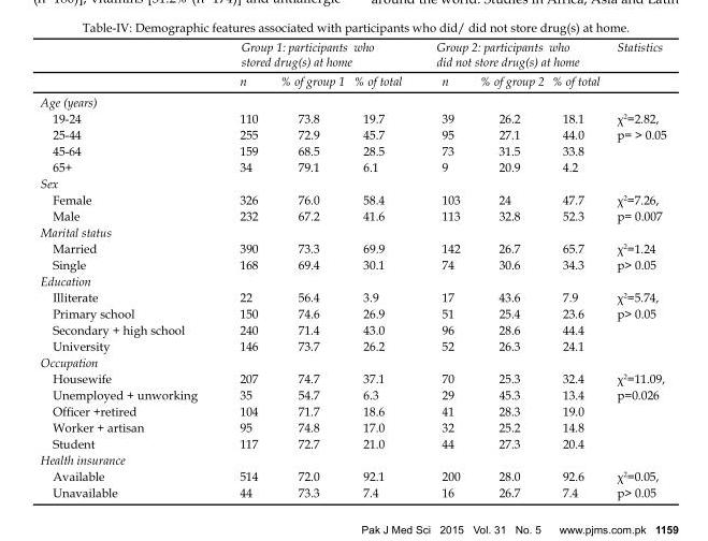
<table><thead><tr><td rowspan="2"></td><td colspan="3">Group 1: participants who stored drug(s) at home</td><td colspan="3">Group 2: participants who did not store drug(s) at home</td><td rowspan="2">Statistics</td></tr><tr><td>n</td><td>% of group 1</td><td>% of total</td><td>n</td><td>% of group 2</td><td>% of total</td></tr></thead><tbody><tr><td colspan="8">Age (years)</td></tr><tr><td>19-24</td><td>110</td><td>73.8</td><td>19.7</td><td>39</td><td>26.2</td><td>18.1</td><td>χ<sup>2</sup>=2.82,</td></tr><tr><td>25-44</td><td>255</td><td>72.9</td><td>45.7</td><td>95</td><td>27.1</td><td>44.0</td><td>p= &gt; 0.05</td></tr><tr><td>45-64</td><td>159</td><td>68.5</td><td>28.5</td><td>73</td><td>31.5</td><td>33.8</td><td></td></tr><tr><td>65+</td><td>34</td><td>79.1</td><td>6.1</td><td>9</td><td>20.9</td><td>4.2</td><td></td></tr><tr><td colspan="8">Sex</td></tr><tr><td>Female</td><td>326</td><td>76.0</td><td>58.4</td><td>103</td><td>24</td><td>47.7</td><td>χ<sup>2</sup>=7.26,</td></tr><tr><td>Male</td><td>232</td><td>67.2</td><td>41.6</td><td>113</td><td>32.8</td><td>52.3</td><td>p= 0.007</td></tr><tr><td colspan="8">Marital status</td></tr><tr><td>Married</td><td>390</td><td>73.3</td><td>69.9</td><td>142</td><td>26.7</td><td>65.7</td><td>χ<sup>2</sup>=1.24</td></tr><tr><td>Single</td><td>168</td><td>69.4</td><td>30.1</td><td>74</td><td>30.6</td><td>34.3</td><td>p&gt; 0.05</td></tr><tr><td colspan="8">Education</td></tr><tr><td>Illiterate</td><td>22</td><td>56.4</td><td>3.9</td><td>17</td><td>43.6</td><td>7.9</td><td>χ<sup>2</sup>=5.74,</td></tr><tr><td>Primary school</td><td>150</td><td>74.6</td><td>26.9</td><td>51</td><td>25.4</td><td>23.6</td><td>p&gt; 0.05</td></tr><tr><td>Secondary + high school</td><td>240</td><td>71.4</td><td>43.0</td><td>96</td><td>28.6</td><td>44.4</td><td></td></tr><tr><td>University</td><td>146</td><td>73.7</td><td>26.2</td><td>52</td><td>26.3</td><td>24.1</td><td></td></tr><tr><td colspan="8">Occupation</td></tr><tr><td>Housewife</td><td>207</td><td>74.7</td><td>37.1</td><td>70</td><td>25.3</td><td>32.4</td><td>χ<sup>2</sup>=11.09,</td></tr><tr><td>Unemployed + unworking</td><td>35</td><td>54.7</td><td>6.3</td><td>29</td><td>45.3</td><td>13.4</td><td>p=0.026</td></tr><tr><td>Officer +retired</td><td>104</td><td>71.7</td><td>18.6</td><td>41</td><td>28.3</td><td>19.0</td><td></td></tr><tr><td>Worker + artisan</td><td>95</td><td>74.8</td><td>17.0</td><td>32</td><td>25.2</td><td>14.8</td><td></td></tr><tr><td>Student</td><td>117</td><td>72.7</td><td>21.0</td><td>44</td><td>27.3</td><td>20.4</td><td></td></tr><tr><td colspan="8">Health insurance</td></tr><tr><td>Available</td><td>514</td><td>72.0</td><td>92.1</td><td>200</td><td>28.0</td><td>92.6</td><td>χ<sup>2</sup>=0.05,</td></tr><tr><td>Unavailable</td><td>44</td><td>73.3</td><td>7.4</td><td>16</td><td>26.7</td><td>7.4</td><td>p&gt; 0.05</td></tr></tbody></table>